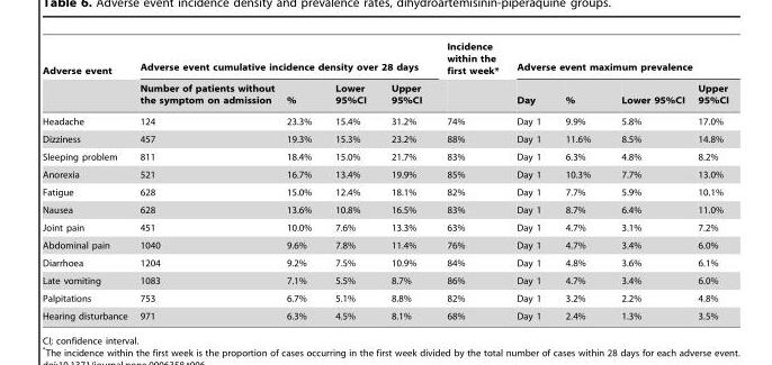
<table><thead><tr><td rowspan="2">Adverse event</td><td colspan="4">Adverse event cumulative incidence density over 28 days</td><td rowspan="2">Incidence within the first week*</td><td colspan="4">Adverse event maximum prevalence</td></tr><tr><td>Number of patients without the symptom on admission</td><td>%</td><td>Lower 95%CI</td><td>Upper 95%CI</td><td>Day</td><td>%</td><td>Lower 95%CI</td><td>Upper 95%CI</td></tr></thead><tbody><tr><td>Headache</td><td>124</td><td>23.3%</td><td>15.4%</td><td>31.2%</td><td>74%</td><td>Day 1</td><td>9.9%</td><td>5.8%</td><td>17.0%</td></tr><tr><td>Dizziness</td><td>457</td><td>19.3%</td><td>15.3%</td><td>23.2%</td><td>88%</td><td>Day 1</td><td>11.6%</td><td>8.5%</td><td>14.8%</td></tr><tr><td>Sleeping problem</td><td>811</td><td>18.4%</td><td>15.0%</td><td>21.7%</td><td>83%</td><td>Day 1</td><td>6.3%</td><td>4.8%</td><td>8.2%</td></tr><tr><td>Anorexia</td><td>521</td><td>16.7%</td><td>13.4%</td><td>19.9%</td><td>85%</td><td>Day 1</td><td>10.3%</td><td>7.7%</td><td>13.0%</td></tr><tr><td>Fatigue</td><td>628</td><td>15.0%</td><td>12.4%</td><td>18.1%</td><td>82%</td><td>Day 1</td><td>7.7%</td><td>5.9%</td><td>10.1%</td></tr><tr><td>Nausea</td><td>628</td><td>13.6%</td><td>10.8%</td><td>16.5%</td><td>83%</td><td>Day 1</td><td>8.7%</td><td>6.4%</td><td>11.0%</td></tr><tr><td>Joint pain</td><td>451</td><td>10.0%</td><td>7.6%</td><td>13.3%</td><td>63%</td><td>Day 1</td><td>4.7%</td><td>3.1%</td><td>7.2%</td></tr><tr><td>Abdominal pain</td><td>1040</td><td>9.6%</td><td>7.8%</td><td>11.4%</td><td>76%</td><td>Day 1</td><td>4.7%</td><td>3.4%</td><td>6.0%</td></tr><tr><td>Diarrhoea</td><td>1204</td><td>9.2%</td><td>7.5%</td><td>10.9%</td><td>84%</td><td>Day 1</td><td>4.8%</td><td>3.6%</td><td>6.1%</td></tr><tr><td>Late vomiting</td><td>1083</td><td>7.1%</td><td>5.5%</td><td>8.7%</td><td>86%</td><td>Day 1</td><td>4.7%</td><td>3.4%</td><td>6.0%</td></tr><tr><td>Palpitations</td><td>753</td><td>6.7%</td><td>5.1%</td><td>8.8%</td><td>82%</td><td>Day 1</td><td>3.2%</td><td>2.2%</td><td>4.8%</td></tr><tr><td>Hearing disturbance</td><td>971</td><td>6.3%</td><td>4.5%</td><td>8.1%</td><td>68%</td><td>Day 1</td><td>2.4%</td><td>1.3%</td><td>3.5%</td></tr></tbody></table>